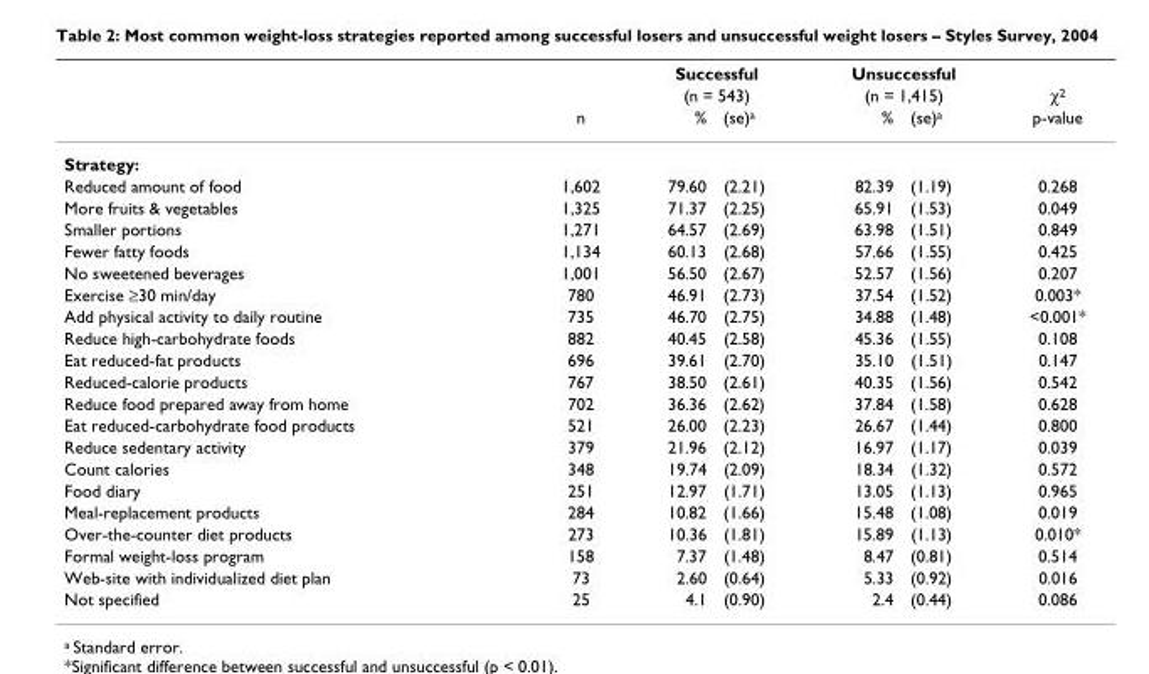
<table><thead><tr><td rowspan="3"></td><td rowspan="3">n</td><td rowspan="2" colspan="2">Successful (n = 543)</td><td rowspan="2" colspan="2">Unsuccessful (n = 1,415)</td><td rowspan="3">χ<sup>2</sup> p-value</td></tr><tr></tr><tr><td>%</td><td>(se)<sup>a</sup></td><td>%</td><td>(se)<sup>a</sup></td></tr></thead><tbody><tr><td colspan="7">Strategy:</td></tr><tr><td>Reduced amount of food</td><td>1,602</td><td>79.60</td><td>(2.21)</td><td>82.39</td><td>(1.19)</td><td>0.268</td></tr><tr><td>More fruits &amp; vegetables</td><td>1,325</td><td>71.37</td><td>(2.25)</td><td>65.91</td><td>(1.53)</td><td>0.049</td></tr><tr><td>Smaller portions</td><td>1,271</td><td>64.57</td><td>(2.69)</td><td>63.98</td><td>(1.51)</td><td>0.849</td></tr><tr><td>Fewer fatty foods</td><td>1,134</td><td>60.13</td><td>(2.68)</td><td>57.66</td><td>(1.55)</td><td>0.425</td></tr><tr><td>No sweetened beverages</td><td>1,001</td><td>56.50</td><td>(2.67)</td><td>52.57</td><td>(1.56)</td><td>0.207</td></tr><tr><td>Exercise ≥30 min/day</td><td>780</td><td>46.91</td><td>(2.73)</td><td>37.54</td><td>(1.52)</td><td>0.003*</td></tr><tr><td>Add physical activity to daily routine</td><td>735</td><td>46.70</td><td>(2.75)</td><td>34.88</td><td>(1.48)</td><td>&lt;0.001*</td></tr><tr><td>Reduce high-carbohydrate foods</td><td>882</td><td>40.45</td><td>(2.58)</td><td>45.36</td><td>(1.55)</td><td>0.108</td></tr><tr><td>Eat reduced-fat products</td><td>696</td><td>39.61</td><td>(2.70)</td><td>35.10</td><td>(1.51)</td><td>0.147</td></tr><tr><td>Reduced-calorie products</td><td>767</td><td>38.50</td><td>(2.61)</td><td>40.35</td><td>(1.56)</td><td>0.542</td></tr><tr><td>Reduce food prepared away from home</td><td>702</td><td>36.36</td><td>(2.62)</td><td>37.84</td><td>(1.58)</td><td>0.628</td></tr><tr><td>Eat reduced-carbohydrate food products</td><td>521</td><td>26.00</td><td>(2.23)</td><td>26.67</td><td>(1.44)</td><td>0.800</td></tr><tr><td>Reduce sedentary activity</td><td>379</td><td>21.96</td><td>(2.12)</td><td>16.97</td><td>(1.17)</td><td>0.039</td></tr><tr><td>Count calories</td><td>348</td><td>19.74</td><td>(2.09)</td><td>18.34</td><td>(1.32)</td><td>0.572</td></tr><tr><td>Food diary</td><td>251</td><td>12.97</td><td>(1.71)</td><td>13.05</td><td>(1.13)</td><td>0.965</td></tr><tr><td>Meal-replacement products</td><td>284</td><td>10.82</td><td>(1.66)</td><td>15.48</td><td>(1.08)</td><td>0.019</td></tr><tr><td>Over-the-counter diet products</td><td>273</td><td>10.36</td><td>(1.81)</td><td>15.89</td><td>(1.13)</td><td>0.010*</td></tr><tr><td>Formal weight-loss program</td><td>158</td><td>7.37</td><td>(1.48)</td><td>8.47</td><td>(0.81)</td><td>0.514</td></tr><tr><td>Web-site with individualized diet plan</td><td>73</td><td>2.60</td><td>(0.64)</td><td>5.33</td><td>(0.92)</td><td>0.016</td></tr><tr><td>Not specified</td><td>25</td><td>4.1</td><td>(0.90)</td><td>2.4</td><td>(0.44)</td><td>0.086</td></tr></tbody></table>